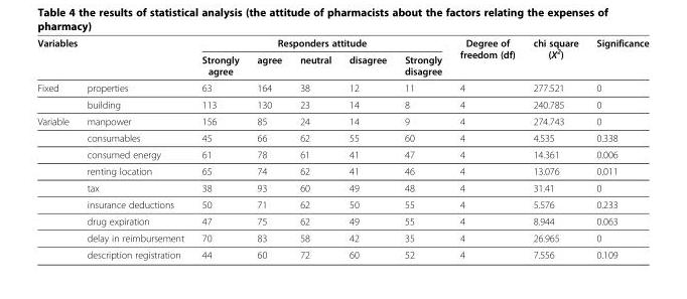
<table><thead><tr><td rowspan="2" colspan="2">Variables</td><td colspan="5">Responders attitude</td><td rowspan="3">Degree of freedom (df) 4</td><td rowspan="3">chi square (X<sup>2</sup>) 277.521</td><td rowspan="3">Significance 0</td></tr><tr><td rowspan="2">Strongly agree 63</td><td rowspan="2">agree 164</td><td rowspan="2">neutral 38</td><td rowspan="2">disagree 12</td><td rowspan="2">Strongly disagree 11</td></tr><tr><td>Fixed</td><td>properties</td></tr></thead><tbody><tr><td></td><td>building</td><td>113</td><td>130</td><td>23</td><td>14</td><td>8</td><td>4</td><td>240.785</td><td>0</td></tr><tr><td rowspan="9">Variable</td><td>manpower</td><td>156</td><td>85</td><td>24</td><td>14</td><td>9</td><td>4</td><td>274.743</td><td>0</td></tr><tr><td>consumables</td><td>45</td><td>66</td><td>62</td><td>55</td><td>60</td><td>4</td><td>4.535</td><td>0.338</td></tr><tr><td>consumed energy</td><td>61</td><td>78</td><td>61</td><td>41</td><td>47</td><td>4</td><td>14.361</td><td>0.006</td></tr><tr><td>renting location</td><td>65</td><td>74</td><td>62</td><td>41</td><td>46</td><td>4</td><td>13.076</td><td>0.011</td></tr><tr><td>tax</td><td>38</td><td>93</td><td>60</td><td>49</td><td>48</td><td>4</td><td>31.41</td><td>0</td></tr><tr><td>insurance deductions</td><td>50</td><td>71</td><td>62</td><td>50</td><td>55</td><td>4</td><td>5.576</td><td>0.233</td></tr><tr><td>drug expiration</td><td>47</td><td>75</td><td>62</td><td>49</td><td>55</td><td>4</td><td>8.944</td><td>0.063</td></tr><tr><td>delay in reimbursement</td><td>70</td><td>83</td><td>58</td><td>42</td><td>35</td><td>4</td><td>26.965</td><td>0</td></tr><tr><td>description registration</td><td>44</td><td>60</td><td>72</td><td>60</td><td>52</td><td>4</td><td>7.556</td><td>0.109</td></tr></tbody></table>